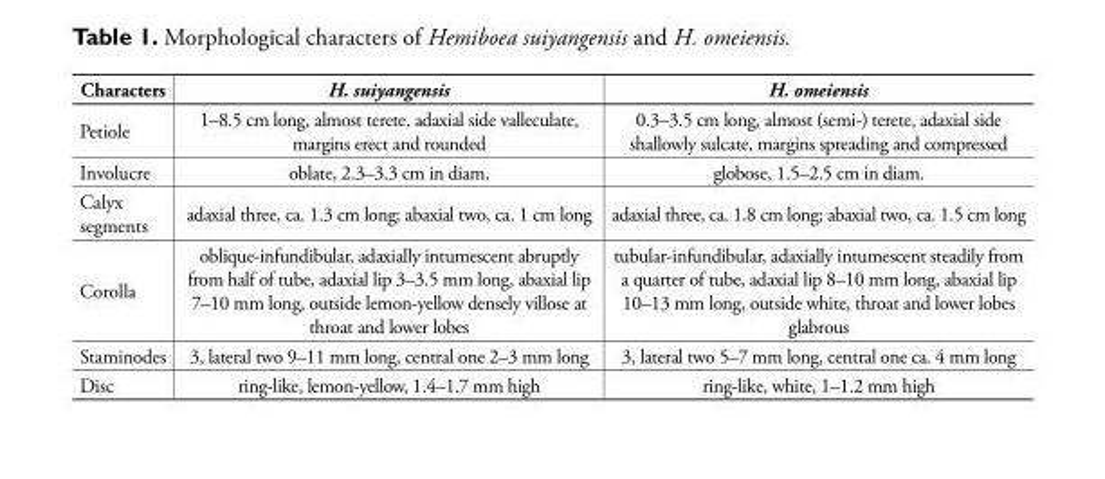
<table><tbody><tr><td>Characters</td><td>H. suiyangensis</td><td>H. omeiensis</td></tr><tr><td>Petiole</td><td>1–8.5 cm long, almost terete, adaxial side valleculate, margins erect and rounded</td><td>0.3–3.5 cm long, almost (semi-) terete, adaxial side shallowly sulcate, margins spreading and compressed</td></tr><tr><td>Involucre</td><td>oblate, 2.3–3.3 cm in diam.</td><td>globose, 1.5–2.5 cm in diam.</td></tr><tr><td>Calyx segments</td><td>adaxial three, ca. 1.3 cm long; abaxial two, ca. 1 cm long</td><td>adaxial three, ca. 1.8 cm long; abaxial two, ca. 1.5 cm long</td></tr><tr><td>Corolla</td><td>oblique-infundibular, adaxially intumescent abruptly from half of tube, adaxial lip 3–3.5 mm long, abaxial lip 7–10 mm long, outside lemon-yellow densely villose at throat and lower lobes</td><td>tubular-infundibular, adaxially intumescent steadily from a quarter of tube, adaxial lip 8–10 mm long, abaxial lip 10–13 mm long, outside white, throat and lower lobes glabrous</td></tr><tr><td>Staminodes</td><td>3, lateral two 9–11 mm long, central one 2–3 mm long</td><td>3, lateral two 5–7 mm long, central one ca. 4 mm long</td></tr><tr><td>Disc</td><td>ring-like, lemon-yellow, 1.4–1.7 mm high</td><td>ring-like, white, 1–1.2 mm high</td></tr></tbody></table>